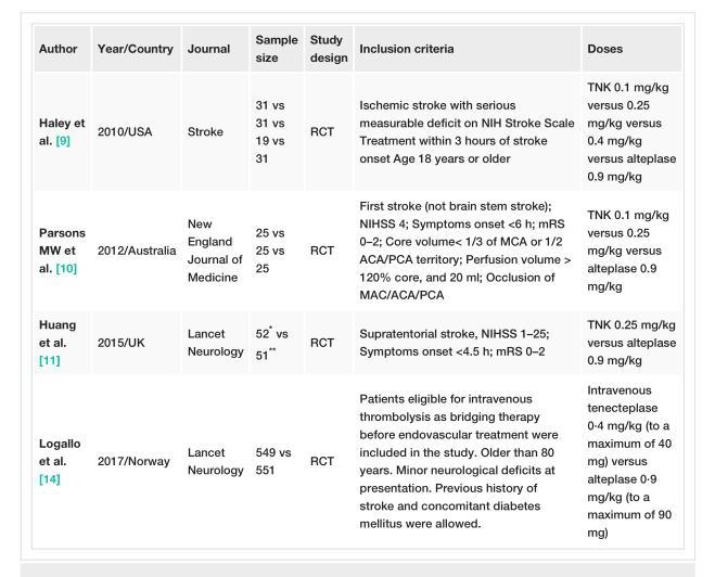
<table><tbody><tr><td>Author</td><td>Year/Country</td><td>Journal</td><td>Sample size</td><td>Study design</td><td>Inclusion criteria</td><td>Doses</td></tr><tr><td>Haley et al. [9]</td><td>2010/USA</td><td>Stroke</td><td>31 vs 31 vs 19 vs 31</td><td>RCT</td><td>Ischemic stroke with serious measurable deficit on NIH Stroke Scale Treatment within 3 hours of stroke onset Age 18 years or older</td><td>TNK 0.1 mg/kg versus 0.25 mg/kg versus 0.4 mg/kg versus alteplase 0.9 mg/kg</td></tr><tr><td>Parsons MW et al. [10]</td><td>2012/Australia</td><td>New England Journal of Medicine</td><td>25 vs 25 vs 25</td><td>RCT</td><td>First stroke (not brain stem stroke); NIHSS 4; Symptoms onset &lt;6 h; mRS 0–2; Core volume&lt; 1/3 of MCA or 1/2 ACA/PCA territory; Perfusion volume &gt; 120% core, and 20 ml; Occlusion of MAC/ACA/PCA</td><td>TNK 0.1 mg/kg versus 0.25 mg/kg versus alteplase 0.9 mg/kg</td></tr><tr><td>Huang et al. [11]</td><td>2015/UK</td><td>Lancet Neurology</td><td>52* vs 51**</td><td>RCT</td><td>Supratentorial stroke, NIHSS 1–25; Symptoms onset &lt;4.5 h; mRS 0–2</td><td>TNK 0.25 mg/kg versus alteplase 0.9 mg/kg</td></tr><tr><td>Logallo et al. [14]</td><td>2017/Norway</td><td>Lancet Neurology</td><td>549 vs 551</td><td>RCT</td><td>Patients eligible for intravenous thrombolysis as bridging therapy before endovascular treatment were included in the study. Older than 80 years. Minor neurological deficits at presentation. Previous history of stroke and concomitant diabetes mellitus were allowed.</td><td>Intravenous tenecteplase 0·4 mg/kg (to a maximum of 40 mg) versus alteplase 0·9 mg/kg (to a maximum of 90 mg)</td></tr></tbody></table>